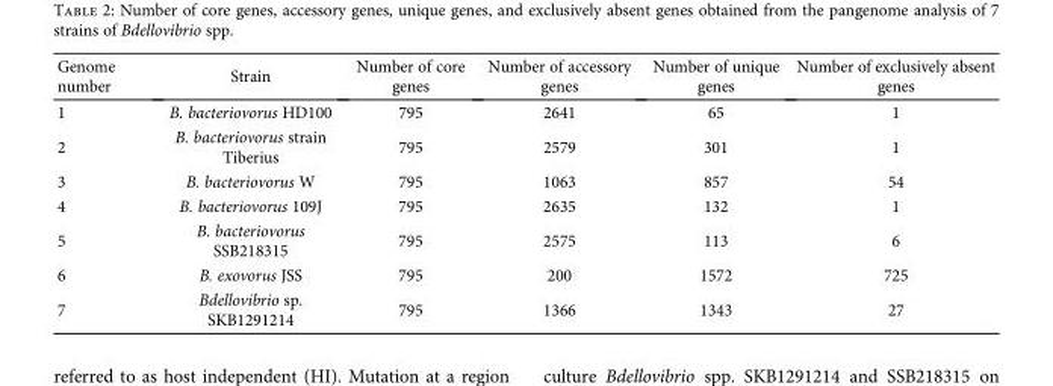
<table><thead><tr><td>Genome number</td><td>Strain</td><td>Number of core genes</td><td>Number of accessory genes</td><td>Number of unique genes</td><td>Number of exclusively absent genes</td></tr></thead><tbody><tr><td>1</td><td>B. bacteriovorus HD100</td><td>795</td><td>2641</td><td>65</td><td>1</td></tr><tr><td>2</td><td>B. bacteriovorus strain Tiberius</td><td>795</td><td>2579</td><td>301</td><td>1</td></tr><tr><td>3</td><td>B. bacteriovorus W</td><td>795</td><td>1063</td><td>857</td><td>54</td></tr><tr><td>4</td><td>B. bacteriovorus 109J</td><td>795</td><td>2635</td><td>132</td><td>1</td></tr><tr><td>5</td><td>B. bacteriovorus SSB218315</td><td>795</td><td>2575</td><td>113</td><td>6</td></tr><tr><td>6</td><td>B. exovorus JSS</td><td>795</td><td>200</td><td>1572</td><td>725</td></tr><tr><td>7</td><td>Bdellovibrio sp. SKB1291214</td><td>795</td><td>1366</td><td>1343</td><td>27</td></tr></tbody></table>